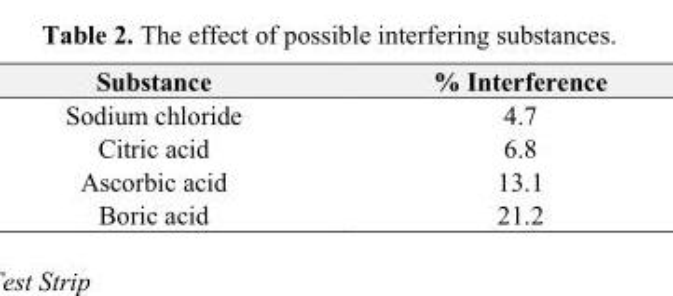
<table><thead><tr><td>Substance</td><td>% Interference</td></tr></thead><tbody><tr><td>Sodium chloride</td><td>4.7</td></tr><tr><td>Citric acid</td><td>6.8</td></tr><tr><td>Ascorbic acid</td><td>13.1</td></tr><tr><td>Boric acid</td><td>21.2</td></tr></tbody></table>